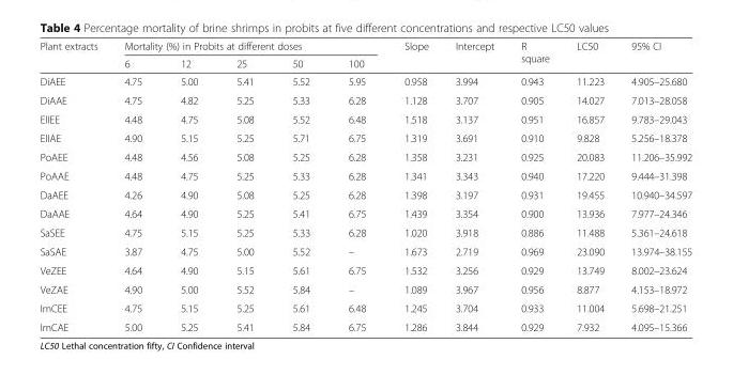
<table><thead><tr><td rowspan="2">Plant extracts</td><td colspan="5">Mortality (%) in Probits at different doses</td><td rowspan="2">Slope</td><td rowspan="2">Intercept</td><td rowspan="2">R square</td><td rowspan="2">LC50</td><td rowspan="2">95% CI</td></tr><tr><td>6</td><td>12</td><td>25</td><td>50</td><td>100</td></tr></thead><tbody><tr><td>DiAEE</td><td>4.75</td><td>5.00</td><td>5.41</td><td>5.52</td><td>5.95</td><td>0.958</td><td>3.994</td><td>0.943</td><td>11.223</td><td>4.905–25.680</td></tr><tr><td>DiAAE</td><td>4.75</td><td>4.82</td><td>5.25</td><td>5.33</td><td>6.28</td><td>1.128</td><td>3.707</td><td>0.905</td><td>14.027</td><td>7.013–28.058</td></tr><tr><td>ElIEE</td><td>4.48</td><td>4.75</td><td>5.08</td><td>5.52</td><td>6.48</td><td>1.518</td><td>3.137</td><td>0.951</td><td>16.857</td><td>9.783–29.043</td></tr><tr><td>ElIAE</td><td>4.90</td><td>5.15</td><td>5.25</td><td>5.71</td><td>6.75</td><td>1.319</td><td>3.691</td><td>0.910</td><td>9.828</td><td>5.256–18.378</td></tr><tr><td>PoAEE</td><td>4.48</td><td>4.56</td><td>5.08</td><td>5.25</td><td>6.28</td><td>1.358</td><td>3.231</td><td>0.925</td><td>20.083</td><td>11.206–35.992</td></tr><tr><td>PoAAE</td><td>4.48</td><td>4.75</td><td>5.25</td><td>5.33</td><td>6.28</td><td>1.341</td><td>3.343</td><td>0.940</td><td>17.220</td><td>9.444–31.398</td></tr><tr><td>DaAEE</td><td>4.26</td><td>4.90</td><td>5.08</td><td>5.25</td><td>6.28</td><td>1.398</td><td>3.197</td><td>0.931</td><td>19.455</td><td>10.940–34.597</td></tr><tr><td>DaAAE</td><td>4.64</td><td>4.90</td><td>5.25</td><td>5.41</td><td>6.75</td><td>1.439</td><td>3.354</td><td>0.900</td><td>13.936</td><td>7.977–24.346</td></tr><tr><td>SaSEE</td><td>4.75</td><td>5.15</td><td>5.25</td><td>5.33</td><td>6.28</td><td>1.020</td><td>3.918</td><td>0.886</td><td>11.488</td><td>5.361–24.618</td></tr><tr><td>SaSAE</td><td>3.87</td><td>4.75</td><td>5.00</td><td>5.52</td><td>–</td><td>1.673</td><td>2.719</td><td>0.969</td><td>23.090</td><td>13.974–38.155</td></tr><tr><td>VeZEE</td><td>4.64</td><td>4.90</td><td>5.15</td><td>5.61</td><td>6.75</td><td>1.532</td><td>3.256</td><td>0.929</td><td>13.749</td><td>8.002–23.624</td></tr><tr><td>VeZAE</td><td>4.90</td><td>5.00</td><td>5.52</td><td>5.84</td><td>–</td><td>1.089</td><td>3.967</td><td>0.956</td><td>8.877</td><td>4.153–18.972</td></tr><tr><td>ImCEE</td><td>4.75</td><td>5.15</td><td>5.25</td><td>5.61</td><td>6.48</td><td>1.245</td><td>3.704</td><td>0.933</td><td>11.004</td><td>5.698–21.251</td></tr><tr><td>ImCAE</td><td>5.00</td><td>5.25</td><td>5.41</td><td>5.84</td><td>6.75</td><td>1.286</td><td>3.844</td><td>0.929</td><td>7.932</td><td>4.095–15.366</td></tr></tbody></table>